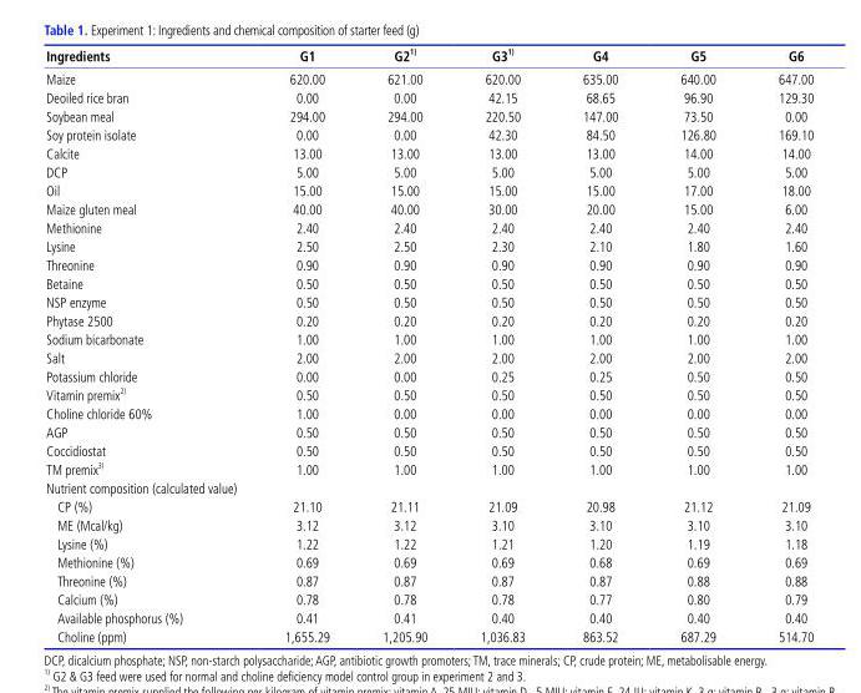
<table><thead><tr><td>Ingredients</td><td>G1</td><td>G2 1)</td><td>G3 1)</td><td>G4</td><td>G5</td><td>G6</td></tr></thead><tbody><tr><td>Maize</td><td>620.00</td><td>621.00</td><td>620.00</td><td>635.00</td><td>640.00</td><td>647.00</td></tr><tr><td>Deoiled rice bran</td><td>0.00</td><td>0.00</td><td>42.15</td><td>68.65</td><td>96.90</td><td>129.30</td></tr><tr><td>Soybean meal</td><td>294.00</td><td>294.00</td><td>220.50</td><td>147.00</td><td>73.50</td><td>0.00</td></tr><tr><td>Soy protein isolate</td><td>0.00</td><td>0.00</td><td>42.30</td><td>84.50</td><td>126.80</td><td>169.10</td></tr><tr><td>Calcite</td><td>13.00</td><td>13.00</td><td>13.00</td><td>13.00</td><td>14.00</td><td>14.00</td></tr><tr><td>DCP</td><td>5.00</td><td>5.00</td><td>5.00</td><td>5.00</td><td>5.00</td><td>5.00</td></tr><tr><td>Oil</td><td>15.00</td><td>15.00</td><td>15.00</td><td>15.00</td><td>17.00</td><td>18.00</td></tr><tr><td>Maize gluten meal</td><td>40.00</td><td>40.00</td><td>30.00</td><td>20.00</td><td>15.00</td><td>6.00</td></tr><tr><td>Methionine</td><td>2.40</td><td>2.40</td><td>2.40</td><td>2.40</td><td>2.40</td><td>2.40</td></tr><tr><td>Lysine</td><td>2.50</td><td>2.50</td><td>2.30</td><td>2.10</td><td>1.80</td><td>1.60</td></tr><tr><td>Threonine</td><td>0.90</td><td>0.90</td><td>0.90</td><td>0.90</td><td>0.90</td><td>0.90</td></tr><tr><td>Betaine</td><td>0.50</td><td>0.50</td><td>0.50</td><td>0.50</td><td>0.50</td><td>0.50</td></tr><tr><td>NSP enzyme</td><td>0.50</td><td>0.50</td><td>0.50</td><td>0.50</td><td>0.50</td><td>0.50</td></tr><tr><td>Phytase 2500</td><td>0.20</td><td>0.20</td><td>0.20</td><td>0.20</td><td>0.20</td><td>0.20</td></tr><tr><td>Sodium bicarbonate</td><td>1.00</td><td>1.00</td><td>1.00</td><td>1.00</td><td>1.00</td><td>1.00</td></tr><tr><td>Salt</td><td>2.00</td><td>2.00</td><td>2.00</td><td>2.00</td><td>2.00</td><td>2.00</td></tr><tr><td>Potassium chloride</td><td>0.00</td><td>0.00</td><td>0.25</td><td>0.25</td><td>0.50</td><td>0.50</td></tr><tr><td>Vitamin premix 2)</td><td>0.50</td><td>0.50</td><td>0.50</td><td>0.50</td><td>0.50</td><td>0.50</td></tr><tr><td>Choline chloride 60%</td><td>1.00</td><td>0.00</td><td>0.00</td><td>0.00</td><td>0.00</td><td>0.00</td></tr><tr><td>AGP</td><td>0.50</td><td>0.50</td><td>0.50</td><td>0.50</td><td>0.50</td><td>0.50</td></tr><tr><td>Coccidiostat</td><td>0.50</td><td>0.50</td><td>0.50</td><td>0.50</td><td>0.50</td><td>0.50</td></tr><tr><td>TM premix 3)</td><td>1.00</td><td>1.00</td><td>1.00</td><td>1.00</td><td>1.00</td><td>1.00</td></tr><tr><td colspan="7">Nutrient composition (calculated value)</td></tr><tr><td>CP (%)</td><td>21.10</td><td>21.11</td><td>21.09</td><td>20.98</td><td>21.12</td><td>21.09</td></tr><tr><td>ME (Mcal/kg)</td><td>3.12</td><td>3.12</td><td>3.10</td><td>3.10</td><td>3.10</td><td>3.10</td></tr><tr><td>Lysine (%)</td><td>1.22</td><td>1.22</td><td>1.21</td><td>1.20</td><td>1.19</td><td>1.18</td></tr><tr><td>Methionine (%)</td><td>0.69</td><td>0.69</td><td>0.69</td><td>0.68</td><td>0.69</td><td>0.69</td></tr><tr><td>Threonine (%)</td><td>0.87</td><td>0.87</td><td>0.87</td><td>0.87</td><td>0.88</td><td>0.88</td></tr><tr><td>Calcium (%)</td><td>0.78</td><td>0.78</td><td>0.78</td><td>0.77</td><td>0.80</td><td>0.79</td></tr><tr><td>Available phosphorus (%)</td><td>0.41</td><td>0.41</td><td>0.40</td><td>0.40</td><td>0.40</td><td>0.40</td></tr><tr><td>Choline (ppm)</td><td>1,655.29</td><td>1,205.90</td><td>1,036.83</td><td>863.52</td><td>687.29</td><td>514.70</td></tr></tbody></table>